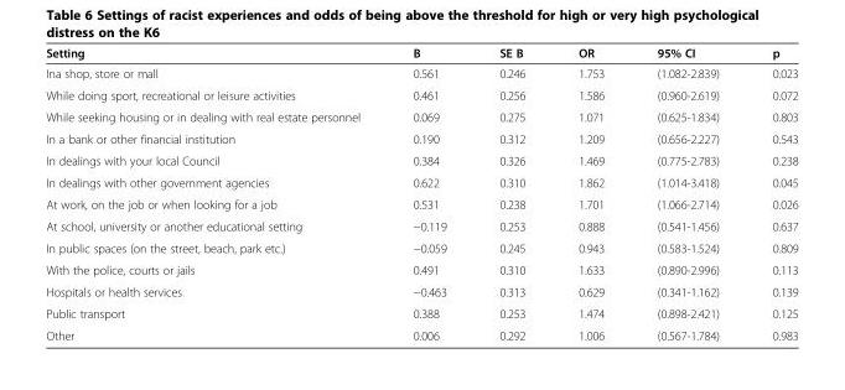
<table><thead><tr><td>Setting</td><td>B</td><td>SE B</td><td>OR</td><td>95% CI</td><td>p</td></tr></thead><tbody><tr><td>Ina shop, store or mall</td><td>0.561</td><td>0.246</td><td>1.753</td><td>(1.082-2.839)</td><td>0.023</td></tr><tr><td>While doing sport, recreational or leisure activities</td><td>0.461</td><td>0.256</td><td>1.586</td><td>(0.960-2.619)</td><td>0.072</td></tr><tr><td>While seeking housing or in dealing with real estate personnel</td><td>0.069</td><td>0.275</td><td>1.071</td><td>(0.625-1.834)</td><td>0.803</td></tr><tr><td>In a bank or other financial institution</td><td>0.190</td><td>0.312</td><td>1.209</td><td>(0.656-2.227)</td><td>0.543</td></tr><tr><td>In dealings with your local Council</td><td>0.384</td><td>0.326</td><td>1.469</td><td>(0.775-2.783)</td><td>0.238</td></tr><tr><td>In dealings with other government agencies</td><td>0.622</td><td>0.310</td><td>1.862</td><td>(1.014-3.418)</td><td>0.045</td></tr><tr><td>At work, on the job or when looking for a job</td><td>0.531</td><td>0.238</td><td>1.701</td><td>(1.066-2.714)</td><td>0.026</td></tr><tr><td>At school, university or another educational setting</td><td>−0.119</td><td>0.253</td><td>0.888</td><td>(0.541-1.456)</td><td>0.637</td></tr><tr><td>In public spaces (on the street, beach, park etc.)</td><td>−0.059</td><td>0.245</td><td>0.943</td><td>(0.583-1.524)</td><td>0.809</td></tr><tr><td>With the police, courts or jails</td><td>0.491</td><td>0.310</td><td>1.633</td><td>(0.890-2.996)</td><td>0.113</td></tr><tr><td>Hospitals or health services</td><td>−0.463</td><td>0.313</td><td>0.629</td><td>(0.341-1.162)</td><td>0.139</td></tr><tr><td>Public transport</td><td>0.388</td><td>0.253</td><td>1.474</td><td>(0.898-2.421)</td><td>0.125</td></tr><tr><td>Other</td><td>0.006</td><td>0.292</td><td>1.006</td><td>(0.567-1.784)</td><td>0.983</td></tr></tbody></table>